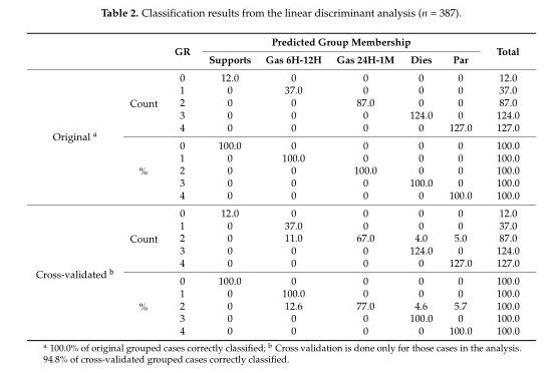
<table><thead><tr><td rowspan="2"></td><td rowspan="2"></td><td rowspan="2">GR</td><td colspan="5">Predicted Group Membership</td><td rowspan="2">Total</td></tr><tr><td>Supports</td><td>Gas 6H-12H</td><td>Gas 24H-1M</td><td>Dies</td><td>Par</td></tr></thead><tbody><tr><td rowspan="10">Original <sup>a</sup></td><td rowspan="5">Count</td><td>0</td><td>12.0</td><td>0</td><td>0</td><td>0</td><td>0</td><td>12.0</td></tr><tr><td>1</td><td>0</td><td>37.0</td><td>0</td><td>0</td><td>0</td><td>37.0</td></tr><tr><td>2</td><td>0</td><td>0</td><td>87.0</td><td>0</td><td>0</td><td>87.0</td></tr><tr><td>3</td><td>0</td><td>0</td><td>0</td><td>124.0</td><td>0</td><td>124.0</td></tr><tr><td>4</td><td>0</td><td>0</td><td>0</td><td>0</td><td>127.0</td><td>127.0</td></tr><tr><td rowspan="5">%</td><td>0</td><td>100.0</td><td>0</td><td>0</td><td>0</td><td>0</td><td>100.0</td></tr><tr><td>1</td><td>0</td><td>100.0</td><td>0</td><td>0</td><td>0</td><td>100.0</td></tr><tr><td>2</td><td>0</td><td>0</td><td>100.0</td><td>0</td><td>0</td><td>100.0</td></tr><tr><td>3</td><td>0</td><td>0</td><td>0</td><td>100.0</td><td>0</td><td>100.0</td></tr><tr><td>4</td><td>0</td><td>0</td><td>0</td><td>0</td><td>100.0</td><td>100.0</td></tr><tr><td rowspan="10">Cross-validated <sup>b</sup></td><td rowspan="5">Count</td><td>0</td><td>12.0</td><td>0</td><td>0</td><td>0</td><td>0</td><td>12.0</td></tr><tr><td>1</td><td>0</td><td>37.0</td><td>0</td><td>0</td><td>0</td><td>37.0</td></tr><tr><td>2</td><td>0</td><td>11.0</td><td>67.0</td><td>4.0</td><td>5.0</td><td>87.0</td></tr><tr><td>3</td><td>0</td><td>0</td><td>0</td><td>124.0</td><td>0</td><td>124.0</td></tr><tr><td>4</td><td>0</td><td>0</td><td>0</td><td>0</td><td>127.0</td><td>127.0</td></tr><tr><td rowspan="5">%</td><td>0</td><td>100.0</td><td>0</td><td>0</td><td>0</td><td>0</td><td>100.0</td></tr><tr><td>1</td><td>0</td><td>100.0</td><td>0</td><td>0</td><td>0</td><td>100.0</td></tr><tr><td>2</td><td>0</td><td>12.6</td><td>77.0</td><td>4.6</td><td>5.7</td><td>100.0</td></tr><tr><td>3</td><td>0</td><td>0</td><td>0</td><td>100.0</td><td>0</td><td>100.0</td></tr><tr><td>4</td><td>0</td><td>0</td><td>0</td><td>0</td><td>100.0</td><td>100.0</td></tr></tbody></table>